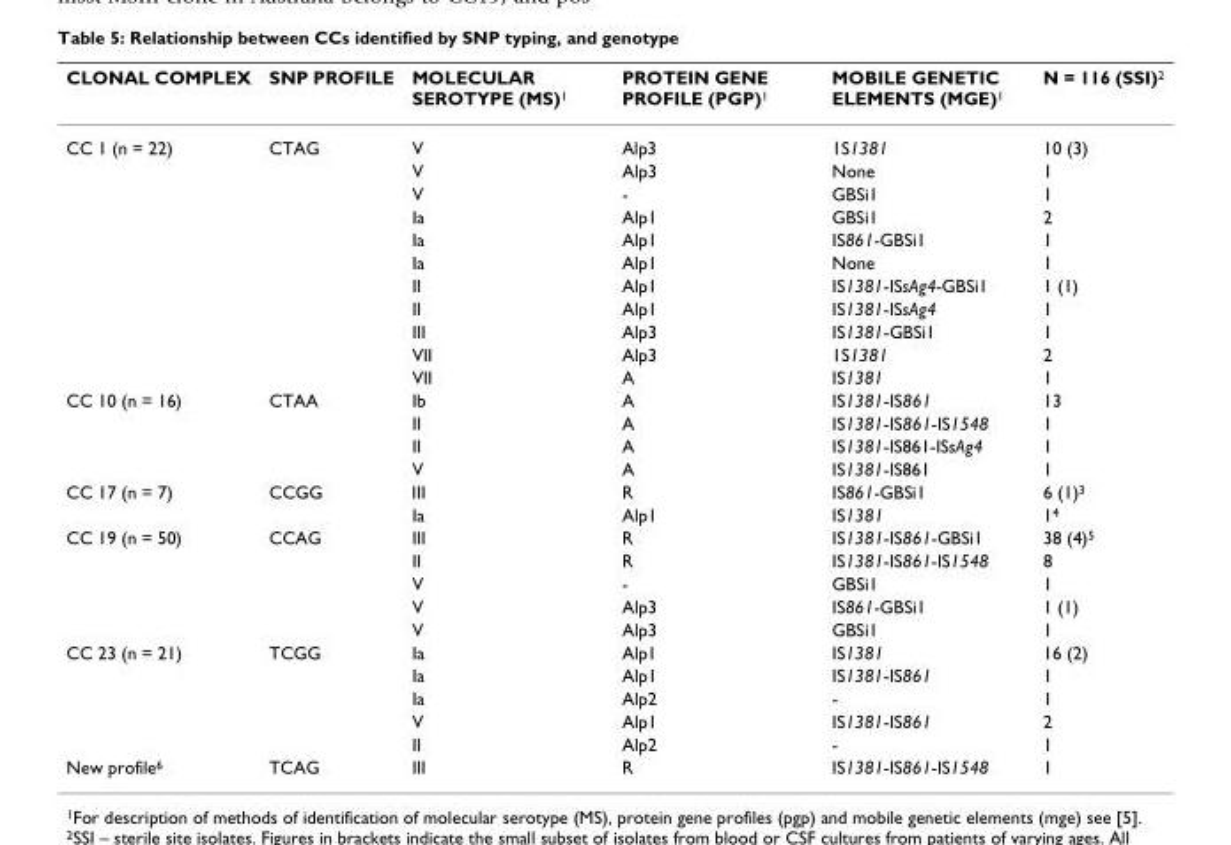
<table><thead><tr><td>CLONAL COMPLEX</td><td>SNP PROFILE</td><td>MOLECULAR SEROTYPE (MS)<sup>1</sup></td><td>PROTEIN GENE PROFILE (PGP)<sup>1</sup></td><td>MOBILE GENETIC ELEMENTS (MGE)<sup>1</sup></td><td>N = 116 (SSI)<sup>2</sup></td></tr></thead><tbody><tr><td rowspan="11">CC 1 (n = 22)</td><td>CTAG</td><td>V</td><td>Alp3</td><td>1S1381</td><td>10 (3)</td></tr><tr><td></td><td>V</td><td>Alp3</td><td>None</td><td>1</td></tr><tr><td></td><td>V</td><td>-</td><td>GBSi1</td><td>1</td></tr><tr><td></td><td>Ia</td><td>Alp1</td><td>GBSi1</td><td>2</td></tr><tr><td></td><td>Ia</td><td>Alp1</td><td>IS861-GBSi1</td><td>1</td></tr><tr><td></td><td>Ia</td><td>Alp1</td><td>None</td><td>1</td></tr><tr><td></td><td>II</td><td>Alp1</td><td>IS1381-ISsAg4-GBSi1</td><td>1 (1)</td></tr><tr><td></td><td>II</td><td>Alp1</td><td>IS1381-ISsAg4</td><td>1</td></tr><tr><td></td><td>III</td><td>Alp3</td><td>IS1381-GBSi1</td><td>1</td></tr><tr><td></td><td>VII</td><td>Alp3</td><td>1S1381</td><td>2</td></tr><tr><td></td><td>VII</td><td>A</td><td>IS1381</td><td>1</td></tr><tr><td rowspan="4">CC 10 (n = 16)</td><td>CTAA</td><td>Ib</td><td>A</td><td>IS1381-IS861</td><td>13</td></tr><tr><td></td><td>II</td><td>A</td><td>IS1381-IS861-IS1548</td><td>1</td></tr><tr><td></td><td>II</td><td>A</td><td>IS1381-IS861-ISsAg4</td><td>1</td></tr><tr><td></td><td>V</td><td>A</td><td>IS1381-IS861</td><td>1</td></tr><tr><td rowspan="2">CC 17 (n = 7)</td><td>CCGG</td><td>III</td><td>R</td><td>IS861-GBSi1</td><td>6 (1)<sup>3</sup></td></tr><tr><td></td><td>Ia</td><td>Alp1</td><td>IS1381</td><td>1<sup>4</sup></td></tr><tr><td rowspan="5">CC 19 (n = 50)</td><td>CCAG</td><td>III</td><td>R</td><td>IS1381-IS861-GBSi1</td><td>38 (4)<sup>5</sup></td></tr><tr><td></td><td>II</td><td>R</td><td>IS1381-IS861-IS1548</td><td>8</td></tr><tr><td></td><td>V</td><td>-</td><td>GBSi1</td><td>1</td></tr><tr><td></td><td>V</td><td>Alp3</td><td>IS861-GBSi1</td><td>1 (1)</td></tr><tr><td></td><td>V</td><td>Alp3</td><td>GBSi1</td><td>1</td></tr><tr><td rowspan="5">CC 23 (n = 21)</td><td>TCGG</td><td>Ia</td><td>Alp1</td><td>IS1381</td><td>16 (2)</td></tr><tr><td></td><td>Ia</td><td>Alp1</td><td>IS1381-IS861</td><td>1</td></tr><tr><td></td><td>Ia</td><td>Alp2</td><td>-</td><td>1</td></tr><tr><td></td><td>V</td><td>Alp1</td><td>IS1381-IS861</td><td>2</td></tr><tr><td></td><td>II</td><td>Alp2</td><td>-</td><td>1</td></tr><tr><td>New profile<sup>6</sup></td><td>TCAG</td><td>III</td><td>R</td><td>IS1381-IS861-IS1548</td><td>1</td></tr></tbody></table>